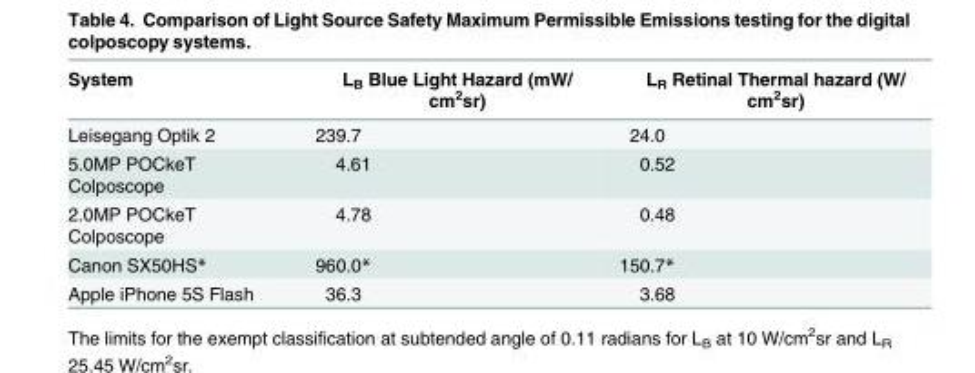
<table><thead><tr><td>System</td><td>L<sub>B</sub> Blue Light Hazard (mW/ cm<sup>2</sup>sr)</td><td>L<sub>R</sub> Retinal Thermal hazard (W/ cm<sup>2</sup>sr)</td></tr></thead><tbody><tr><td>Leisegang Optik 2</td><td>239.7</td><td>24.0</td></tr><tr><td>5.0MP POCkeT Colposcope</td><td>4.61</td><td>0.52</td></tr><tr><td>2.0MP POCkeT Colposcope</td><td>4.78</td><td>0.48</td></tr><tr><td>Canon SX50HS*</td><td>960.0*</td><td>150.7*</td></tr><tr><td>Apple iPhone 5S Flash</td><td>36.3</td><td>3.68</td></tr></tbody></table>